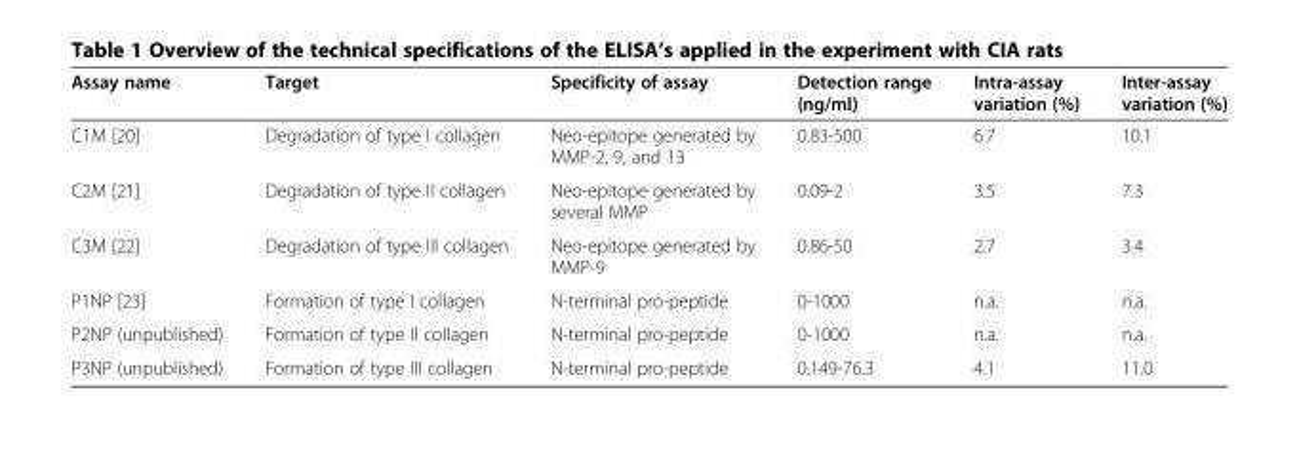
<table><thead><tr><td>Assay name</td><td>Target</td><td>Specificity of assay</td><td>Detection range (ng/ml)</td><td>Intra-assay variation (%)</td><td>Inter-assay variation (%)</td></tr></thead><tbody><tr><td>C1M [20]</td><td>Degradation of type I collagen</td><td>Neo-epitope generated by MMP-2, 9, and 13</td><td>0.83-500</td><td>6.7</td><td>10.1</td></tr><tr><td>C2M [21]</td><td>Degradation of type II collagen</td><td>Neo-epitope generated by several MMP</td><td>0.09-2</td><td>3.5</td><td>7.3</td></tr><tr><td>C3M [22]</td><td>Degradation of type III collagen</td><td>Neo-epitope generated by MMP-9</td><td>0.86-50</td><td>2.7</td><td>3.4</td></tr><tr><td>P1NP [23]</td><td>Formation of type I collagen</td><td>N-terminal pro-peptide</td><td>0-1000</td><td>n.a.</td><td>n.a.</td></tr><tr><td>P2NP (unpublished)</td><td>Formation of type II collagen</td><td>N-terminal pro-peptide</td><td>0-1000</td><td>n.a.</td><td>n.a.</td></tr><tr><td>P3NP (unpublished)</td><td>Formation of type III collagen</td><td>N-terminal pro-peptide</td><td>0.149-76.3</td><td>4.1</td><td>11.0</td></tr></tbody></table>